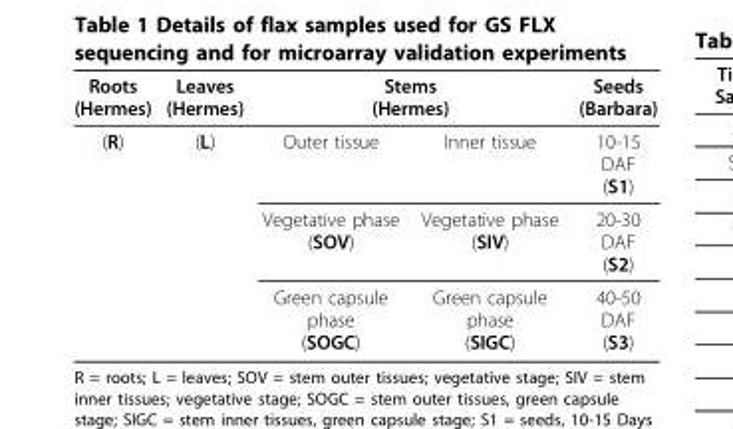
<table><thead><tr><td rowspan="2">Roots (Hermes) (R)</td><td rowspan="2">Leaves (Hermes) (L)</td><td colspan="2">Stems (Hermes)</td><td rowspan="2">Seeds (Barbara) 10-15 DAF (S1)</td></tr><tr><td>Outer tissue</td><td>Inner tissue</td></tr></thead><tbody><tr><td></td><td></td><td>Vegetative phase (SOV)</td><td>Vegetative phase (SIV)</td><td>20-30 DAF (S2)</td></tr><tr><td></td><td></td><td>Green capsule phase (SOGC)</td><td>Green capsule phase (SIGC)</td><td>40-50 DAF (S3)</td></tr></tbody></table>